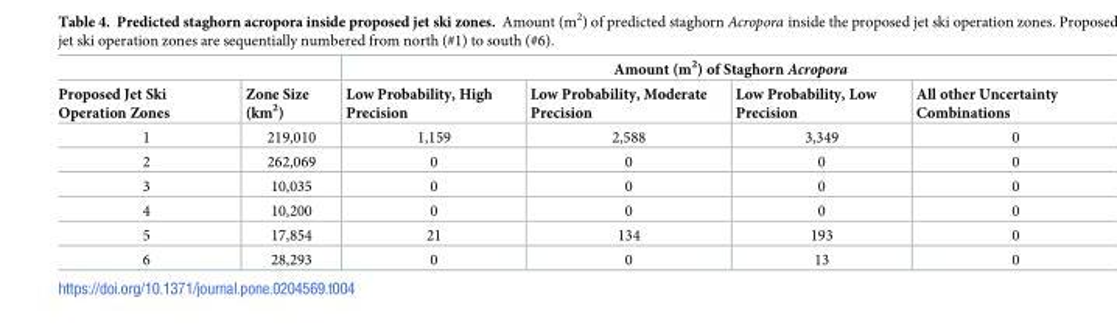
<table><thead><tr><td rowspan="2">Proposed Jet Ski Operation Zones</td><td rowspan="2">Zone Size (km<sup>2</sup>)</td><td colspan="4">Amount (m<sup>2</sup>) of Staghorn Acropora</td></tr><tr><td>Low Probability, High Precision</td><td>Low Probability, Moderate Precision</td><td>Low Probability, Low Precision</td><td>All other Uncertainty Combinations</td></tr></thead><tbody><tr><td>1</td><td>219,010</td><td>1,159</td><td>2,588</td><td>3,349</td><td>0</td></tr><tr><td>2</td><td>262,069</td><td>0</td><td>0</td><td>0</td><td>0</td></tr><tr><td>3</td><td>10,035</td><td>0</td><td>0</td><td>0</td><td>0</td></tr><tr><td>4</td><td>10,200</td><td>0</td><td>0</td><td>0</td><td>0</td></tr><tr><td>5</td><td>17,854</td><td>21</td><td>134</td><td>193</td><td>0</td></tr><tr><td>6</td><td>28,293</td><td>0</td><td>0</td><td>13</td><td>0</td></tr></tbody></table>